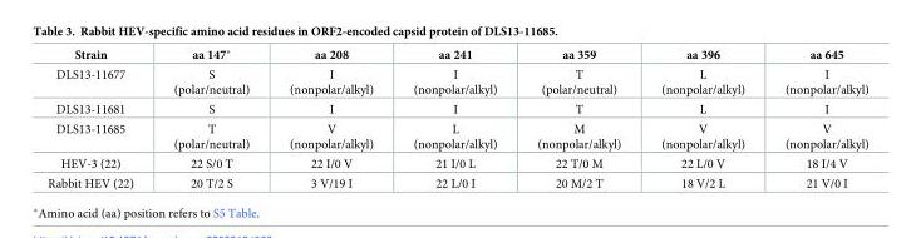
<table><thead><tr><td>Strain</td><td>aa 147*</td><td>aa 208</td><td>aa 241</td><td>aa 359</td><td>aa 396</td><td>aa 645</td></tr></thead><tbody><tr><td>DLS13-11677</td><td>S (polar/neutral)</td><td>I (nonpolar/alkyl)</td><td>I (nonpolar/alkyl)</td><td>T (polar/neutral)</td><td>L (nonpolar/alkyl)</td><td>I (nonpolar/alkyl)</td></tr><tr><td>DLS13-11681</td><td>S</td><td>I</td><td>I</td><td>T</td><td>L</td><td>I</td></tr><tr><td>DLS13-11685</td><td>T (polar/neutral)</td><td>V (nonpolar/alkyl)</td><td>L (nonpolar/alkyl)</td><td>M (nonpolar/alkyl)</td><td>V (nonpolar/alkyl)</td><td>V (nonpolar/alkyl)</td></tr><tr><td>HEV-3 (22)</td><td>22 S/0 T</td><td>22 I/0 V</td><td>21 I/0 L</td><td>22 T/0 M</td><td>22 L/0 V</td><td>18 I/4 V</td></tr><tr><td>Rabbit HEV (22)</td><td>20 T/2 S</td><td>3 V/19 I</td><td>22 L/0 I</td><td>20 M/2 T</td><td>18 V/2 L</td><td>21 V/0 I</td></tr></tbody></table>